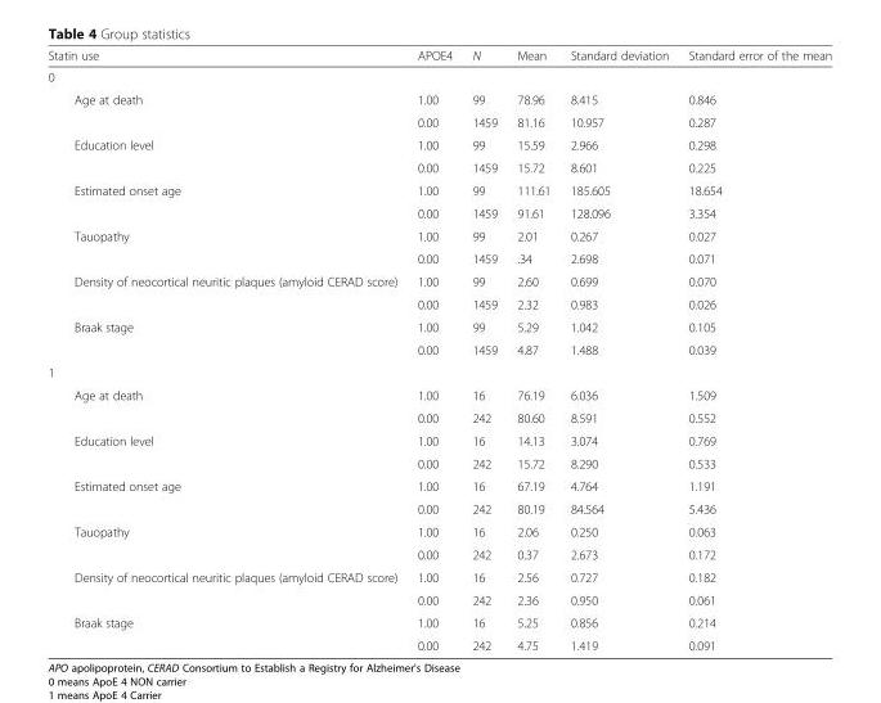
<table><thead><tr><td colspan="2">Statin use</td><td rowspan="2">APOE4</td><td rowspan="2">N</td><td rowspan="2">Mean</td><td rowspan="2">Standard deviation</td><td rowspan="2">Standard error of the mean</td></tr><tr><td>0</td><td></td></tr></thead><tbody><tr><td rowspan="12"></td><td rowspan="2">Age at death</td><td>1.00</td><td>99</td><td>78.96</td><td>8.415</td><td>0.846</td></tr><tr><td>0.00</td><td>1459</td><td>81.16</td><td>10.957</td><td>0.287</td></tr><tr><td rowspan="2">Education level</td><td>1.00</td><td>99</td><td>15.59</td><td>2.966</td><td>0.298</td></tr><tr><td>0.00</td><td>1459</td><td>15.72</td><td>8.601</td><td>0.225</td></tr><tr><td rowspan="2">Estimated onset age</td><td>1.00</td><td>99</td><td>111.61</td><td>185.605</td><td>18.654</td></tr><tr><td>0.00</td><td>1459</td><td>91.61</td><td>128.096</td><td>3.354</td></tr><tr><td rowspan="2">Tauopathy</td><td>1.00</td><td>99</td><td>2.01</td><td>0.267</td><td>0.027</td></tr><tr><td>0.00</td><td>1459</td><td>.34</td><td>2.698</td><td>0.071</td></tr><tr><td rowspan="2">Density of neocortical neuritic plaques (amyloid CERAD score)</td><td>1.00</td><td>99</td><td>2.60</td><td>0.699</td><td>0.070</td></tr><tr><td>0.00</td><td>1459</td><td>2.32</td><td>0.983</td><td>0.026</td></tr><tr><td rowspan="2">Braak stage</td><td>1.00</td><td>99</td><td>5.29</td><td>1.042</td><td>0.105</td></tr><tr><td>0.00</td><td>1459</td><td>4.87</td><td>1.488</td><td>0.039</td></tr><tr><td colspan="7">1</td></tr><tr><td rowspan="12"></td><td rowspan="2">Age at death</td><td>1.00</td><td>16</td><td>76.19</td><td>6.036</td><td>1.509</td></tr><tr><td>0.00</td><td>242</td><td>80.60</td><td>8.591</td><td>0.552</td></tr><tr><td rowspan="2">Education level</td><td>1.00</td><td>16</td><td>14.13</td><td>3.074</td><td>0.769</td></tr><tr><td>0.00</td><td>242</td><td>15.72</td><td>8.290</td><td>0.533</td></tr><tr><td rowspan="2">Estimated onset age</td><td>1.00</td><td>16</td><td>67.19</td><td>4.764</td><td>1.191</td></tr><tr><td>0.00</td><td>242</td><td>80.19</td><td>84.564</td><td>5.436</td></tr><tr><td rowspan="2">Tauopathy</td><td>1.00</td><td>16</td><td>2.06</td><td>0.250</td><td>0.063</td></tr><tr><td>0.00</td><td>242</td><td>0.37</td><td>2.673</td><td>0.172</td></tr><tr><td rowspan="2">Density of neocortical neuritic plaques (amyloid CERAD score)</td><td>1.00</td><td>16</td><td>2.56</td><td>0.727</td><td>0.182</td></tr><tr><td>0.00</td><td>242</td><td>2.36</td><td>0.950</td><td>0.061</td></tr><tr><td rowspan="2">Braak stage</td><td>1.00</td><td>16</td><td>5.25</td><td>0.856</td><td>0.214</td></tr><tr><td>0.00</td><td>242</td><td>4.75</td><td>1.419</td><td>0.091</td></tr></tbody></table>